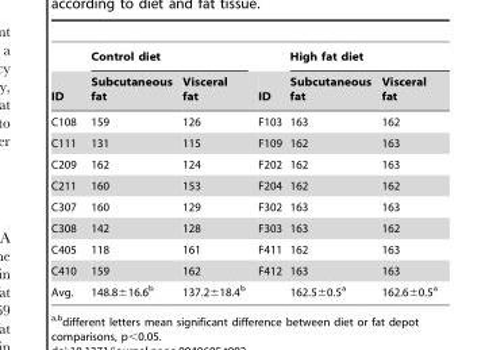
<table><thead><tr><td rowspan="2">ID</td><td colspan="2">Control diet</td><td rowspan="2">ID</td><td colspan="2">High fat diet</td></tr><tr><td>Subcutaneous fat</td><td>Visceral fat</td><td>Subcutaneous fat</td><td>Visceral fat</td></tr></thead><tbody><tr><td>C108</td><td>159</td><td>126</td><td>F103</td><td>163</td><td>162</td></tr><tr><td>C111</td><td>131</td><td>115</td><td>F109</td><td>162</td><td>163</td></tr><tr><td>C209</td><td>162</td><td>124</td><td>F202</td><td>162</td><td>163</td></tr><tr><td>C211</td><td>160</td><td>153</td><td>F204</td><td>162</td><td>162</td></tr><tr><td>C307</td><td>160</td><td>129</td><td>F302</td><td>163</td><td>163</td></tr><tr><td>C308</td><td>142</td><td>128</td><td>F303</td><td>163</td><td>162</td></tr><tr><td>C405</td><td>118</td><td>161</td><td>F411</td><td>162</td><td>163</td></tr><tr><td>C410</td><td>159</td><td>162</td><td>F412</td><td>163</td><td>163</td></tr><tr><td>Avg.</td><td>148.8±16.6<sup>b</sup></td><td>137.2±18.4<sup>b</sup></td><td></td><td>162.5±0.5<sup>a</sup></td><td>162.6±0.5<sup>a</sup></td></tr></tbody></table>